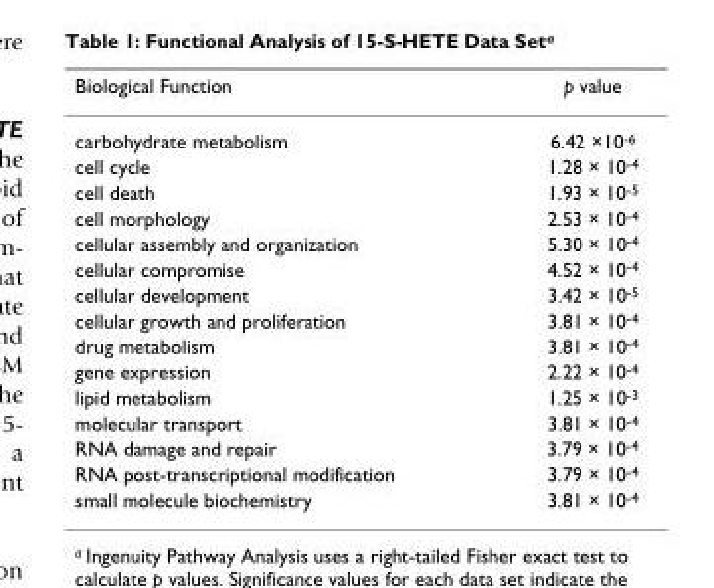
<table><thead><tr><td>Biological Function</td><td>p value</td></tr></thead><tbody><tr><td>carbohydrate metabolism</td><td>6.42 ×10<sup>-6</sup></td></tr><tr><td>cell cycle</td><td>1.28 × 10<sup>-4</sup></td></tr><tr><td>cell death</td><td>1.93 × 10<sup>-5</sup></td></tr><tr><td>cell morphology</td><td>2.53 × 10<sup>-4</sup></td></tr><tr><td>cellular assembly and organization</td><td>5.30 × 10<sup>-4</sup></td></tr><tr><td>cellular compromise</td><td>4.52 × 10<sup>-4</sup></td></tr><tr><td>cellular development</td><td>3.42 × 10<sup>-5</sup></td></tr><tr><td>cellular growth and proliferation</td><td>3.81 × 10<sup>-4</sup></td></tr><tr><td>drug metabolism</td><td>3.81 × 10<sup>-4</sup></td></tr><tr><td>gene expression</td><td>2.22 × 10<sup>-4</sup></td></tr><tr><td>lipid metabolism</td><td>1.25 × 10<sup>-3</sup></td></tr><tr><td>molecular transport</td><td>3.81 × 10<sup>-4</sup></td></tr><tr><td>RNA damage and repair</td><td>3.79 × 10<sup>-4</sup></td></tr><tr><td>RNA post-transcriptional modification</td><td>3.79 × 10<sup>-4</sup></td></tr><tr><td>small molecule biochemistry</td><td>3.81 × 10<sup>-4</sup></td></tr></tbody></table>